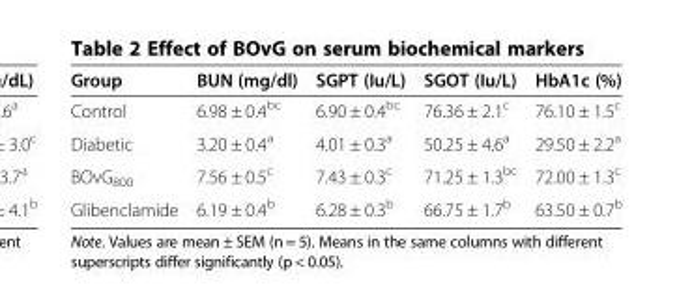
<table><thead><tr><td>Group</td><td>BUN (mg/dl)</td><td>SGPT (Iu/L)</td><td>SGOT (Iu/L)</td><td>HbA1c (%)</td></tr></thead><tbody><tr><td>Control</td><td>6.98 ± 0.4<sup>bc</sup></td><td>6.90 ± 0.4<sup>bc</sup></td><td>76.36 ± 2.1<sup>c</sup></td><td>76.10 ± 1.5<sup>c</sup></td></tr><tr><td>Diabetic</td><td>3.20 ± 0.4<sup>a</sup></td><td>4.01 ± 0.3<sup>a</sup></td><td>50.25 ± 4.6<sup>a</sup></td><td>29.50 ± 2.2<sup>a</sup></td></tr><tr><td>BOvG<sub>800</sub></td><td>7.56 ± 0.5<sup>c</sup></td><td>7.43 ± 0.3<sup>c</sup></td><td>71.25 ± 1.3<sup>bc</sup></td><td>72.00 ± 1.3<sup>c</sup></td></tr><tr><td>Glibenclamide</td><td>6.19 ± 0.4<sup>b</sup></td><td>6.28 ± 0.3<sup>b</sup></td><td>66.75 ± 1.7<sup>b</sup></td><td>63.50 ± 0.7<sup>b</sup></td></tr></tbody></table>